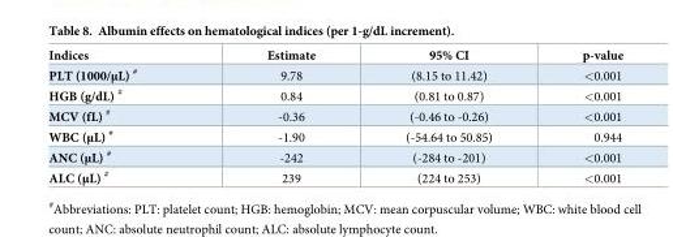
<table><thead><tr><td>Indices</td><td>Estimate</td><td>95% CI</td><td>p-value</td></tr></thead><tbody><tr><td>PLT (1000/μL) <sup>#</sup></td><td>9.78</td><td>(8.15 to 11.42)</td><td>&lt;0.001</td></tr><tr><td>HGB (g/dL) <sup>#</sup></td><td>0.84</td><td>(0.81 to 0.87)</td><td>&lt;0.001</td></tr><tr><td>MCV (fL) <sup>#</sup></td><td>-0.36</td><td>(-0.46 to -0.26)</td><td>&lt;0.001</td></tr><tr><td>WBC (μL) <sup>#</sup></td><td>-1.90</td><td>(-54.64 to 50.85)</td><td>0.944</td></tr><tr><td>ANC (μL) <sup>#</sup></td><td>-242</td><td>(-284 to -201)</td><td>&lt;0.001</td></tr><tr><td>ALC (μL) <sup>#</sup></td><td>239</td><td>(224 to 253)</td><td>&lt;0.001</td></tr></tbody></table>